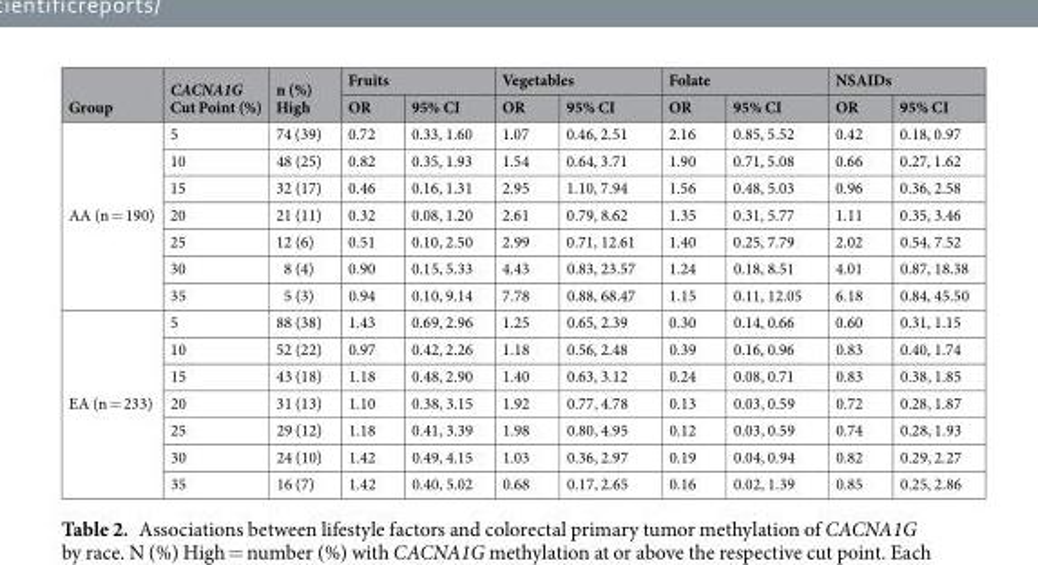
<table><thead><tr><td rowspan="2">Group</td><td rowspan="2">CACNA1G Cut Point (%)</td><td rowspan="2">n (%) High</td><td colspan="2">Fruits</td><td colspan="2">Vegetables</td><td colspan="2">Folate</td><td colspan="2">NSAIDs</td></tr><tr><td>OR</td><td>95% CI</td><td>OR</td><td>95% CI</td><td>OR</td><td>95% CI</td><td>OR</td><td>95% CI</td></tr></thead><tbody><tr><td rowspan="7">AA (n = 190)</td><td>5</td><td>74 (39)</td><td>0.72</td><td>0.33, 1.60</td><td>1.07</td><td>0.46, 2.51</td><td>2.16</td><td>0.85, 5.52</td><td>0.42</td><td>0.18, 0.97</td></tr><tr><td>10</td><td>48 (25)</td><td>0.82</td><td>0.35, 1.93</td><td>1.54</td><td>0.64, 3.71</td><td>1.90</td><td>0.71, 5.08</td><td>0.66</td><td>0.27, 1.62</td></tr><tr><td>15</td><td>32 (17)</td><td>0.46</td><td>0.16, 1.31</td><td>2.95</td><td>1.10, 7.94</td><td>1.56</td><td>0.48, 5.03</td><td>0.96</td><td>0.36, 2.58</td></tr><tr><td>20</td><td>21 (11)</td><td>0.32</td><td>0.08, 1.20</td><td>2.61</td><td>0.79, 8.62</td><td>1.35</td><td>0.31, 5.77</td><td>1.11</td><td>0.35, 3.46</td></tr><tr><td>25</td><td>12 (6)</td><td>0.51</td><td>0.10, 2.50</td><td>2.99</td><td>0.71, 12.61</td><td>1.40</td><td>0.25, 7.79</td><td>2.02</td><td>0.54, 7.52</td></tr><tr><td>30</td><td>8 (4)</td><td>0.90</td><td>0.15, 5.33</td><td>4.43</td><td>0.83, 23.57</td><td>1.24</td><td>0.18, 8.51</td><td>4.01</td><td>0.87, 18.38</td></tr><tr><td>35</td><td>5 (3)</td><td>0.94</td><td>0.10, 9.14</td><td>7.78</td><td>0.88, 68.47</td><td>1.15</td><td>0.11, 12.05</td><td>6.18</td><td>0.84, 45.50</td></tr><tr><td rowspan="7">EA (n = 233)</td><td>5</td><td>88 (38)</td><td>1.43</td><td>0.69, 2.96</td><td>1.25</td><td>0.65, 2.39</td><td>0.30</td><td>0.14, 0.66</td><td>0.60</td><td>0.31, 1.15</td></tr><tr><td>10</td><td>52 (22)</td><td>0.97</td><td>0.42, 2.26</td><td>1.18</td><td>0.56, 2.48</td><td>0.39</td><td>0.16, 0.96</td><td>0.83</td><td>0.40, 1.74</td></tr><tr><td>15</td><td>43 (18)</td><td>1.18</td><td>0.48, 2.90</td><td>1.40</td><td>0.63, 3.12</td><td>0.24</td><td>0.08, 0.71</td><td>0.83</td><td>0.38, 1.85</td></tr><tr><td>20</td><td>31 (13)</td><td>1.10</td><td>0.38, 3.15</td><td>1.92</td><td>0.77, 4.78</td><td>0.13</td><td>0.03, 0.59</td><td>0.72</td><td>0.28, 1.87</td></tr><tr><td>25</td><td>29 (12)</td><td>1.18</td><td>0.41, 3.39</td><td>1.98</td><td>0.80, 4.95</td><td>0.12</td><td>0.03, 0.59</td><td>0.74</td><td>0.28, 1.93</td></tr><tr><td>30</td><td>24 (10)</td><td>1.42</td><td>0.49, 4.15</td><td>1.03</td><td>0.36, 2.97</td><td>0.19</td><td>0.04, 0.94</td><td>0.82</td><td>0.29, 2.27</td></tr><tr><td>35</td><td>16 (7)</td><td>1.42</td><td>0.40, 5.02</td><td>0.68</td><td>0.17, 2.65</td><td>0.16</td><td>0.02, 1.39</td><td>0.85</td><td>0.25, 2.86</td></tr></tbody></table>